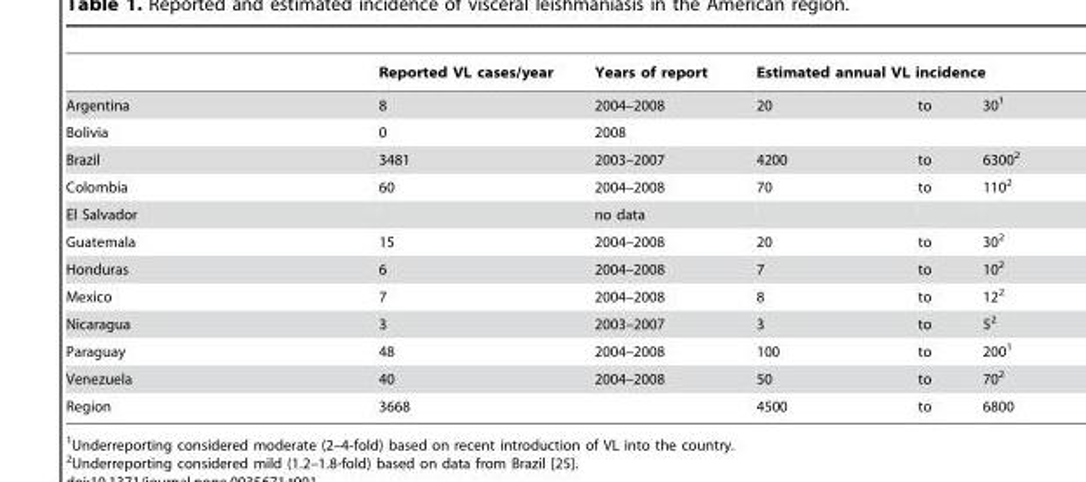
<table><thead><tr><td rowspan="2">Argentina</td><td rowspan="2">Reported VL cases/year 8</td><td rowspan="2">Years of report 2004–2008</td><td colspan="3">Estimated annual VL incidence</td></tr><tr><td>20</td><td>to</td><td>30<sup>1</sup></td></tr></thead><tbody><tr><td>Bolivia</td><td>0</td><td>2008</td><td></td><td></td><td></td></tr><tr><td>Brazil</td><td>3481</td><td>2003–2007</td><td>4200</td><td>to</td><td>6300<sup>2</sup></td></tr><tr><td>Colombia</td><td>60</td><td>2004–2008</td><td>70</td><td>to</td><td>110<sup>2</sup></td></tr><tr><td>El Salvador</td><td></td><td>no data</td><td></td><td></td><td></td></tr><tr><td>Guatemala</td><td>15</td><td>2004–2008</td><td>20</td><td>to</td><td>30<sup>2</sup></td></tr><tr><td>Honduras</td><td>6</td><td>2004–2008</td><td>7</td><td>to</td><td>10<sup>2</sup></td></tr><tr><td>Mexico</td><td>7</td><td>2004–2008</td><td>8</td><td>to</td><td>12<sup>2</sup></td></tr><tr><td>Nicaragua</td><td>3</td><td>2003–2007</td><td>3</td><td>to</td><td>5<sup>2</sup></td></tr><tr><td>Paraguay</td><td>48</td><td>2004–2008</td><td>100</td><td>to</td><td>200<sup>1</sup></td></tr><tr><td>Venezuela</td><td>40</td><td>2004–2008</td><td>50</td><td>to</td><td>70<sup>2</sup></td></tr><tr><td>Region</td><td>3668</td><td></td><td>4500</td><td>to</td><td>6800</td></tr></tbody></table>